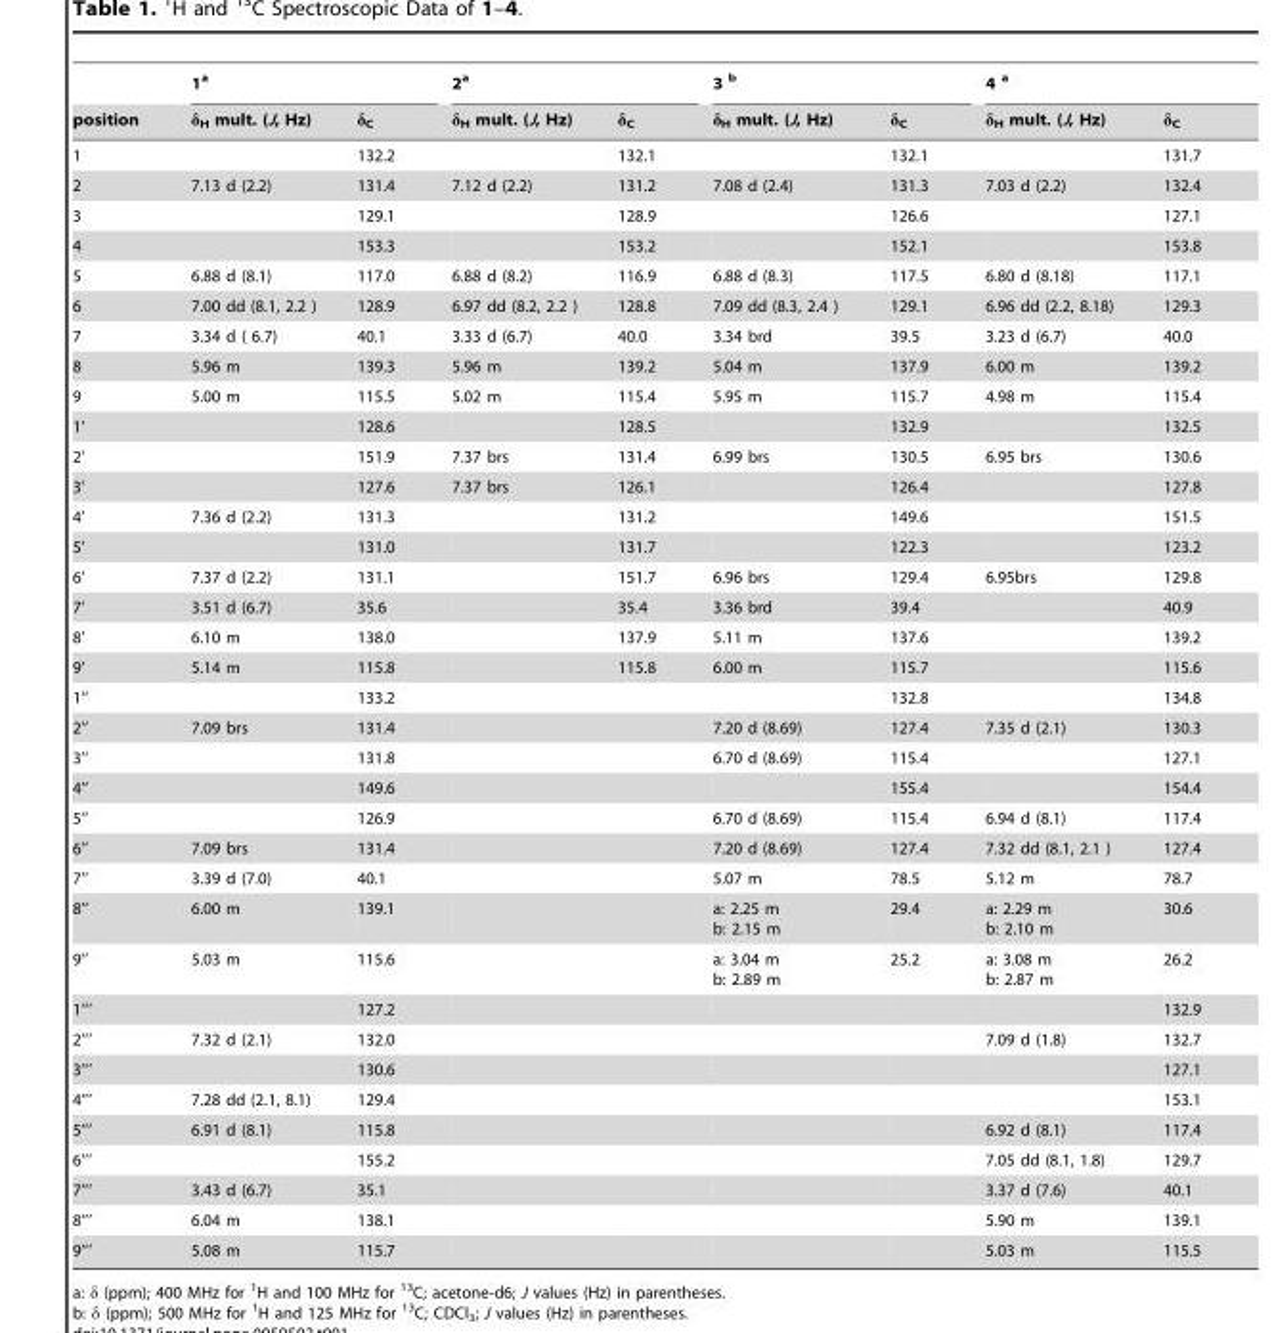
<table><thead><tr><td rowspan="2">position</td><td colspan="2">1<sup>a</sup></td><td colspan="2">2<sup>a</sup></td><td colspan="2">3 b</td><td colspan="2">4 a</td></tr><tr><td>δ<sub>H</sub> mult. (J, Hz)</td><td>δ<sub>C</sub></td><td>δ<sub>H</sub> mult. (J, Hz)</td><td>δ<sub>C</sub></td><td>δ<sub>H</sub> mult. (J, Hz)</td><td>δ<sub>C</sub></td><td>δ<sub>H</sub> mult. (J, Hz)</td><td>δ<sub>C</sub></td></tr></thead><tbody><tr><td>1</td><td></td><td>132.2</td><td></td><td>132.1</td><td></td><td>132.1</td><td></td><td>131.7</td></tr><tr><td>2</td><td>7.13 d (2.2)</td><td>131.4</td><td>7.12 d (2.2)</td><td>131.2</td><td>7.08 d (2.4)</td><td>131.3</td><td>7.03 d (2.2)</td><td>132.4</td></tr><tr><td>3</td><td></td><td>129.1</td><td></td><td>128.9</td><td></td><td>126.6</td><td></td><td>127.1</td></tr><tr><td>4</td><td></td><td>153.3</td><td></td><td>153.2</td><td></td><td>152.1</td><td></td><td>153.8</td></tr><tr><td>5</td><td>6.88 d (8.1)</td><td>117.0</td><td>6.88 d (8.2)</td><td>116.9</td><td>6.88 d (8.3)</td><td>117.5</td><td>6.80 d (8.18)</td><td>117.1</td></tr><tr><td>6</td><td>7.00 dd (8.1, 2.2 )</td><td>128.9</td><td>6.97 dd (8.2, 2.2 )</td><td>128.8</td><td>7.09 dd (8.3, 2.4 )</td><td>129.1</td><td>6.96 dd (2.2, 8.18)</td><td>129.3</td></tr><tr><td>7</td><td>3.34 d ( 6.7)</td><td>40.1</td><td>3.33 d (6.7)</td><td>40.0</td><td>3.34 brd</td><td>39.5</td><td>3.23 d (6.7)</td><td>40.0</td></tr><tr><td>8</td><td>5.96 m</td><td>139.3</td><td>5.96 m</td><td>139.2</td><td>5.04 m</td><td>137.9</td><td>6.00 m</td><td>139.2</td></tr><tr><td>9</td><td>5.00 m</td><td>115.5</td><td>5.02 m</td><td>115.4</td><td>5.95 m</td><td>115.7</td><td>4.98 m</td><td>115.4</td></tr><tr><td>1’</td><td></td><td>128.6</td><td></td><td>128.5</td><td></td><td>132.9</td><td></td><td>132.5</td></tr><tr><td>2’</td><td></td><td>151.9</td><td>7.37 brs</td><td>131.4</td><td>6.99 brs</td><td>130.5</td><td>6.95 brs</td><td>130.6</td></tr><tr><td>3’</td><td></td><td>127.6</td><td>7.37 brs</td><td>126.1</td><td></td><td>126.4</td><td></td><td>127.8</td></tr><tr><td>4’</td><td>7.36 d (2.2)</td><td>131.3</td><td></td><td>131.2</td><td></td><td>149.6</td><td></td><td>151.5</td></tr><tr><td>5’</td><td></td><td>131.0</td><td></td><td>131.7</td><td></td><td>122.3</td><td></td><td>123.2</td></tr><tr><td>6’</td><td>7.37 d (2.2)</td><td>131.1</td><td></td><td>151.7</td><td>6.96 brs</td><td>129.4</td><td>6.95brs</td><td>129.8</td></tr><tr><td>7’</td><td>3.51 d (6.7)</td><td>35.6</td><td></td><td>35.4</td><td>3.36 brd</td><td>39.4</td><td></td><td>40.9</td></tr><tr><td>8’</td><td>6.10 m</td><td>138.0</td><td></td><td>137.9</td><td>5.11 m</td><td>137.6</td><td></td><td>139.2</td></tr><tr><td>9’</td><td>5.14 m</td><td>115.8</td><td></td><td>115.8</td><td>6.00 m</td><td>115.7</td><td></td><td>115.6</td></tr><tr><td>1’’</td><td></td><td>133.2</td><td></td><td></td><td></td><td>132.8</td><td></td><td>134.8</td></tr><tr><td>2’’</td><td>7.09 brs</td><td>131.4</td><td></td><td></td><td>7.20 d (8.69)</td><td>127.4</td><td>7.35 d (2.1)</td><td>130.3</td></tr><tr><td>3’’</td><td></td><td>131.8</td><td></td><td></td><td>6.70 d (8.69)</td><td>115.4</td><td></td><td>127.1</td></tr><tr><td>4’’</td><td></td><td>149.6</td><td></td><td></td><td></td><td>155.4</td><td></td><td>154.4</td></tr><tr><td>5’’</td><td></td><td>126.9</td><td></td><td></td><td>6.70 d (8.69)</td><td>115.4</td><td>6.94 d (8.1)</td><td>117.4</td></tr><tr><td>6’’</td><td>7.09 brs</td><td>131.4</td><td></td><td></td><td>7.20 d (8.69)</td><td>127.4</td><td>7.32 dd (8.1, 2.1 )</td><td>127.4</td></tr><tr><td>7’’</td><td>3.39 d (7.0)</td><td>40.1</td><td></td><td></td><td>5.07 m</td><td>78.5</td><td>5.12 m</td><td>78.7</td></tr><tr><td>8’’</td><td>6.00 m</td><td>139.1</td><td></td><td></td><td>a: 2.25 m b: 2.15 m</td><td>29.4</td><td>a: 2.29 m b: 2.10 m</td><td>30.6</td></tr><tr><td>9’’</td><td>5.03 m</td><td>115.6</td><td></td><td></td><td>a: 3.04 m b: 2.89 m</td><td>25.2</td><td>a: 3.08 m b: 2.87 m</td><td>26.2</td></tr><tr><td>1’’’</td><td></td><td>127.2</td><td></td><td></td><td></td><td></td><td></td><td>132.9</td></tr><tr><td>2’’’</td><td>7.32 d (2.1)</td><td>132.0</td><td></td><td></td><td></td><td></td><td>7.09 d (1.8)</td><td>132.7</td></tr><tr><td>3’’’</td><td></td><td>130.6</td><td></td><td></td><td></td><td></td><td></td><td>127.1</td></tr><tr><td>4’’’</td><td>7.28 dd (2.1, 8.1)</td><td>129.4</td><td></td><td></td><td></td><td></td><td></td><td>153.1</td></tr><tr><td>5’’’</td><td>6.91 d (8.1)</td><td>115.8</td><td></td><td></td><td></td><td></td><td>6.92 d (8.1)</td><td>117.4</td></tr><tr><td>6’’’</td><td></td><td>155.2</td><td></td><td></td><td></td><td></td><td>7.05 dd (8.1, 1.8)</td><td>129.7</td></tr><tr><td>7’’’</td><td>3.43 d (6.7)</td><td>35.1</td><td></td><td></td><td></td><td></td><td>3.37 d (7.6)</td><td>40.1</td></tr><tr><td>8’’’</td><td>6.04 m</td><td>138.1</td><td></td><td></td><td></td><td></td><td>5.90 m</td><td>139.1</td></tr><tr><td>9’’’</td><td>5.08 m</td><td>115.7</td><td></td><td></td><td></td><td></td><td>5.03 m</td><td>115.5</td></tr></tbody></table>